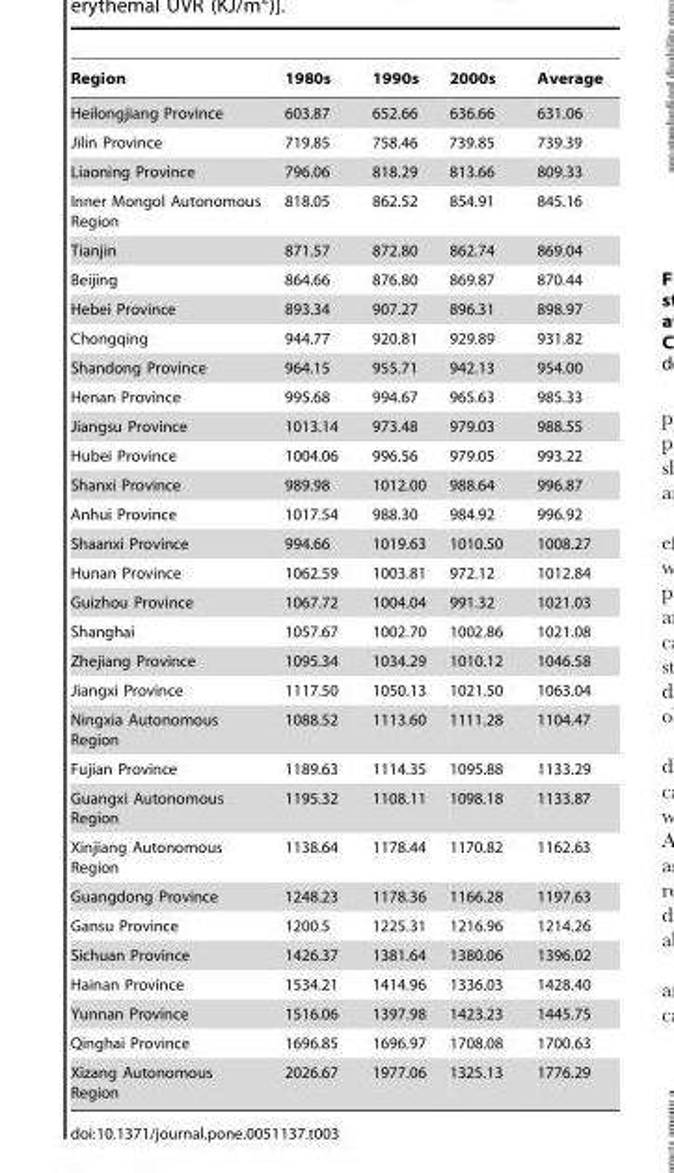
<table><thead><tr><td>Region</td><td>1980s</td><td>1990s</td><td>2000s</td><td>Average</td></tr></thead><tbody><tr><td>Heilongjiang Province</td><td>603.87</td><td>652.66</td><td>636.66</td><td>631.06</td></tr><tr><td>Jilin Province</td><td>719.85</td><td>758.46</td><td>739.85</td><td>739.39</td></tr><tr><td>Liaoning Province</td><td>796.06</td><td>818.29</td><td>813.66</td><td>809.33</td></tr><tr><td>Inner Mongol Autonomous Region</td><td>818.05</td><td>862.52</td><td>854.91</td><td>845.16</td></tr><tr><td>Tianjin</td><td>871.57</td><td>872.80</td><td>862.74</td><td>869.04</td></tr><tr><td>Beijing</td><td>864.66</td><td>876.80</td><td>869.87</td><td>870.44</td></tr><tr><td>Hebei Province</td><td>893.34</td><td>907.27</td><td>896.31</td><td>898.97</td></tr><tr><td>Chongqing</td><td>944.77</td><td>920.81</td><td>929.89</td><td>931.82</td></tr><tr><td>Shandong Province</td><td>964.15</td><td>955.71</td><td>942.13</td><td>954.00</td></tr><tr><td>Henan Province</td><td>995.68</td><td>994.67</td><td>965.63</td><td>985.33</td></tr><tr><td>Jiangsu Province</td><td>1013.14</td><td>973.48</td><td>979.03</td><td>988.55</td></tr><tr><td>Hubei Province</td><td>1004.06</td><td>996.56</td><td>979.05</td><td>993.22</td></tr><tr><td>Shanxi Province</td><td>989.98</td><td>1012.00</td><td>988.64</td><td>996.87</td></tr><tr><td>Anhui Province</td><td>1017.54</td><td>988.30</td><td>984.92</td><td>996.92</td></tr><tr><td>Shaanxi Province</td><td>994.66</td><td>1019.63</td><td>1010.50</td><td>1008.27</td></tr><tr><td>Hunan Province</td><td>1062.59</td><td>1003.81</td><td>972.12</td><td>1012.84</td></tr><tr><td>Guizhou Province</td><td>1067.72</td><td>1004.04</td><td>991.32</td><td>1021.03</td></tr><tr><td>Shanghai</td><td>1057.67</td><td>1002.70</td><td>1002.86</td><td>1021.08</td></tr><tr><td>Zhejiang Province</td><td>1095.34</td><td>1034.29</td><td>1010.12</td><td>1046.58</td></tr><tr><td>Jiangxi Province</td><td>1117.50</td><td>1050.13</td><td>1021.50</td><td>1063.04</td></tr><tr><td>Ningxia Autonomous Region</td><td>1088.52</td><td>1113.60</td><td>1111.28</td><td>1104.47</td></tr><tr><td>Fujian Province</td><td>1189.63</td><td>1114.35</td><td>1095.88</td><td>1133.29</td></tr><tr><td>Guangxi Autonomous Region</td><td>1195.32</td><td>1108.11</td><td>1098.18</td><td>1133.87</td></tr><tr><td>Xinjiang Autonomous Region</td><td>1138.64</td><td>1178.44</td><td>1170.82</td><td>1162.63</td></tr><tr><td>Guangdong Province</td><td>1248.23</td><td>1178.36</td><td>1166.28</td><td>1197.63</td></tr><tr><td>Gansu Province</td><td>1200.5</td><td>1225.31</td><td>1216.96</td><td>1214.26</td></tr><tr><td>Sichuan Province</td><td>1426.37</td><td>1381.64</td><td>1380.06</td><td>1396.02</td></tr><tr><td>Hainan Province</td><td>1534.21</td><td>1414.96</td><td>1336.03</td><td>1428.40</td></tr><tr><td>Yunnan Province</td><td>1516.06</td><td>1397.98</td><td>1423.23</td><td>1445.75</td></tr><tr><td>Qinghai Province</td><td>1696.85</td><td>1696.97</td><td>1708.08</td><td>1700.63</td></tr><tr><td>Xizang Autonomous Region</td><td>2026.67</td><td>1977.06</td><td>1325.13</td><td>1776.29</td></tr></tbody></table>